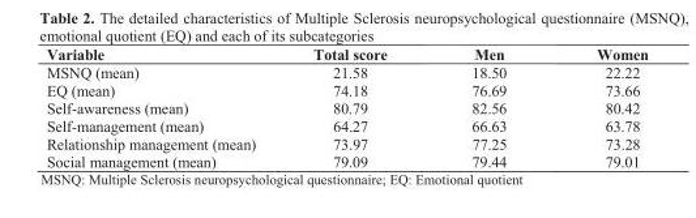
<table><thead><tr><td>Variable</td><td>Total score</td><td>Men</td><td>Women</td></tr></thead><tbody><tr><td>MSNQ (mean)</td><td>21.58</td><td>18.50</td><td>22.22</td></tr><tr><td>EQ (mean)</td><td>74.18</td><td>76.69</td><td>73.66</td></tr><tr><td>Self-awareness (mean)</td><td>80.79</td><td>82.56</td><td>80.42</td></tr><tr><td>Self-management (mean)</td><td>64.27</td><td>66.63</td><td>63.78</td></tr><tr><td>Relationship management (mean)</td><td>73.97</td><td>77.25</td><td>73.28</td></tr><tr><td>Social management (mean)</td><td>79.09</td><td>79.44</td><td>79.01</td></tr></tbody></table>